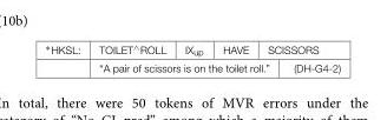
<table><tbody><tr><td rowspan="2">∗HKSL:</td><td>TOILET<sup>∧</sup>ROLL</td><td>IX<sub>up</sub></td><td>HAVE</td><td colspan="2">SCISSORS</td></tr><tr><td colspan="4">“A pair of scissors is on the toilet roll.”</td><td>(DH-G4-2)</td></tr></tbody></table>